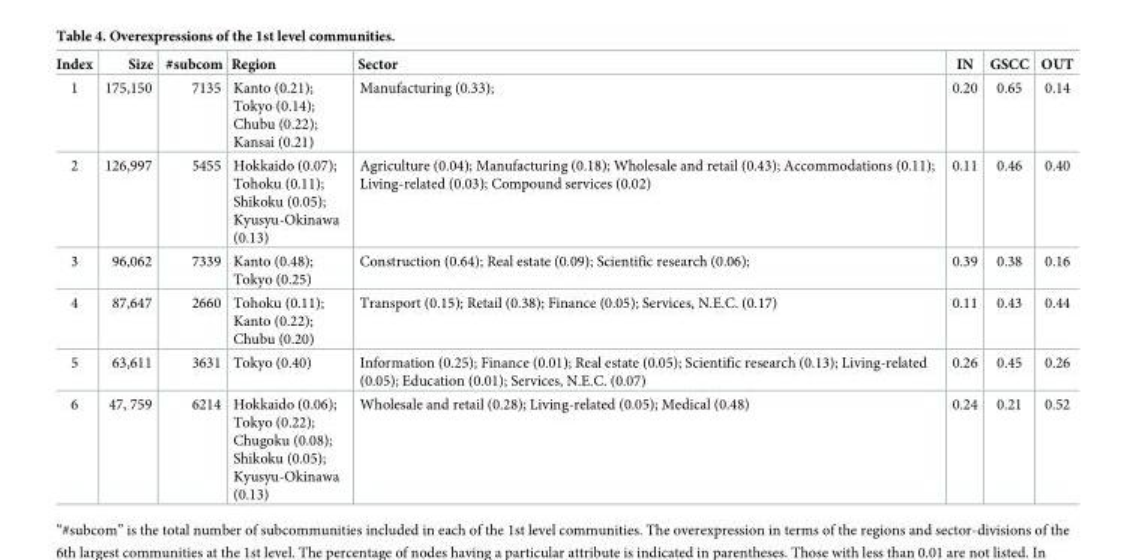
<table><thead><tr><td>Index</td><td>Size</td><td>#subcom</td><td>Region</td><td>Sector</td><td>IN</td><td>GSCC</td><td>OUT</td></tr></thead><tbody><tr><td>1</td><td>175,150</td><td>7135</td><td>Kanto (0.21); Tokyo (0.14); Chubu (0.22); Kansai (0.21)</td><td>Manufacturing (0.33);</td><td>0.20</td><td>0.65</td><td>0.14</td></tr><tr><td>2</td><td>126,997</td><td>5455</td><td>Hokkaido (0.07); Tohoku (0.11); Shikoku (0.05); Kyusyu-Okinawa (0.13)</td><td>Agriculture (0.04); Manufacturing (0.18); Wholesale and retail (0.43); Accommodations (0.11); Living-related (0.03); Compound services (0.02)</td><td>0.11</td><td>0.46</td><td>0.40</td></tr><tr><td>3</td><td>96,062</td><td>7339</td><td>Kanto (0.48); Tokyo (0.25)</td><td>Construction (0.64); Real estate (0.09); Scientific research (0.06);</td><td>0.39</td><td>0.38</td><td>0.16</td></tr><tr><td>4</td><td>87,647</td><td>2660</td><td>Tohoku (0.11); Kanto (0.22); Chubu (0.20)</td><td>Transport (0.15); Retail (0.38); Finance (0.05); Services, N.E.C. (0.17)</td><td>0.11</td><td>0.43</td><td>0.44</td></tr><tr><td>5</td><td>63,611</td><td>3631</td><td>Tokyo (0.40)</td><td>Information (0.25); Finance (0.01); Real estate (0.05); Scientific research (0.13); Living-related (0.05); Education (0.01); Services, N.E.C. (0.07)</td><td>0.26</td><td>0.45</td><td>0.26</td></tr><tr><td>6</td><td>47, 759</td><td>6214</td><td>Hokkaido (0.06); Tokyo (0.22); Chugoku (0.08); Shikoku (0.05); Kyusyu-Okinawa (0.13)</td><td>Wholesale and retail (0.28); Living-related (0.05); Medical (0.48)</td><td>0.24</td><td>0.21</td><td>0.52</td></tr></tbody></table>